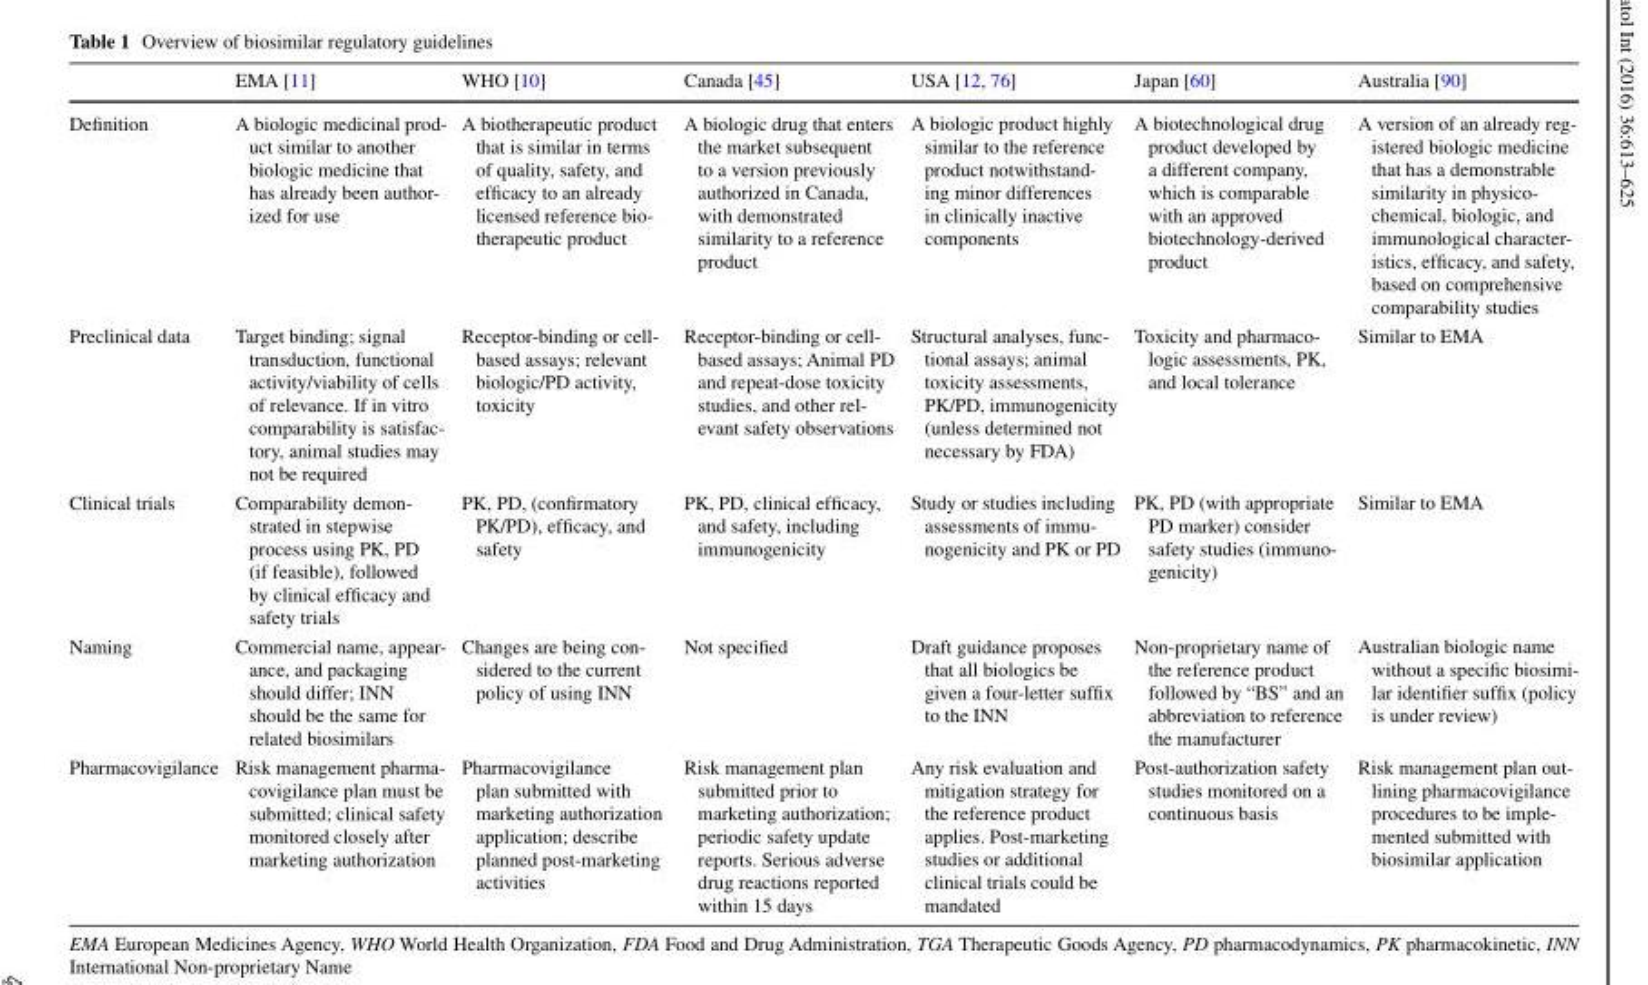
<table><thead><tr><td></td><td>EMA [11]</td><td>WHO [10]</td><td>Canada [45]</td><td>USA [12, 76]</td><td>Japan [60]</td><td>Australia [90]</td></tr></thead><tbody><tr><td>Definition</td><td>A biologic medicinal prod- uct similar to another biologic medicine that has already been author- ized for use</td><td>A biotherapeutic product that is similar in terms of quality, safety, and efficacy to an already licensed reference bio- therapeutic product</td><td>A biologic drug that enters the market subsequent to a version previously authorized in Canada, with demonstrated similarity to a reference product</td><td>A biologic product highly similar to the reference product notwithstand- ing minor differences in clinically inactive components</td><td>A biotechnological drug product developed by a different company, which is comparable with an approved biotechnology-derived product</td><td>A version of an already reg- istered biologic medicine that has a demonstrable similarity in physico- chemical, biologic, and immunological character- istics, efficacy, and safety, based on comprehensive comparability studies</td></tr><tr><td>Preclinical data</td><td>Target binding; signal transduction, functional activity/viability of cells of relevance. If in vitro comparability is satisfac- tory, animal studies may not be required</td><td>Receptor-binding or cell- based assays; relevant biologic/PD activity, toxicity</td><td>Receptor-binding or cell- based assays; Animal PD and repeat-dose toxicity studies, and other rel- evant safety observations</td><td>Structural analyses, func- tional assays; animal toxicity assessments, PK/PD, immunogenicity (unless determined not necessary by FDA)</td><td>Toxicity and pharmaco- logic assessments, PK, and local tolerance</td><td>Similar to EMA</td></tr><tr><td>Clinical trials</td><td>Comparability demon- strated in stepwise process using PK, PD (if feasible), followed by clinical efficacy and safety trials</td><td>PK, PD, (confirmatory PK/PD), efficacy, and safety</td><td>PK, PD, clinical efficacy, and safety, including immunogenicity</td><td>Study or studies including assessments of immu- nogenicity and PK or PD</td><td>PK, PD (with appropriate PD marker) consider safety studies (immuno- genicity)</td><td>Similar to EMA</td></tr><tr><td>Naming</td><td>Commercial name, appear- ance, and packaging should differ; INN should be the same for related biosimilars</td><td>Changes are being con- sidered to the current policy of using INN</td><td>Not specified</td><td>Draft guidance proposes that all biologics be given a four-letter suffix to the INN</td><td>Non-proprietary name of the reference product followed by “BS” and an abbreviation to reference the manufacturer</td><td>Australian biologic name without a specific biosimi- lar identifier suffix (policy is under review)</td></tr><tr><td>Pharmacovigilance</td><td>Risk management pharma- covigilance plan must be submitted; clinical safety monitored closely after marketing authorization</td><td>Pharmacovigilance plan submitted with marketing authorization application; describe planned post-marketing activities</td><td>Risk management plan submitted prior to marketing authorization; periodic safety update reports. Serious adverse drug reactions reported within 15 days</td><td>Any risk evaluation and mitigation strategy for the reference product applies. Post-marketing studies or additional clinical trials could be mandated</td><td>Post-authorization safety studies monitored on a continuous basis</td><td>Risk management plan out- lining pharmacovigilance procedures to be imple- mented submitted with biosimilar application</td></tr></tbody></table>